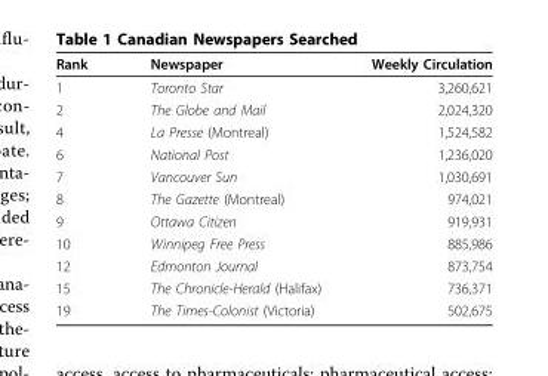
<table><thead><tr><td>Rank</td><td>Newspaper</td><td>Weekly Circulation</td></tr></thead><tbody><tr><td>1</td><td>Toronto Star</td><td>3,260,621</td></tr><tr><td>2</td><td>The Globe and Mail</td><td>2,024,320</td></tr><tr><td>4</td><td>La Presse (Montreal)</td><td>1,524,582</td></tr><tr><td>6</td><td>National Post</td><td>1,236,020</td></tr><tr><td>7</td><td>Vancouver Sun</td><td>1,030,691</td></tr><tr><td>8</td><td>The Gazette (Montreal)</td><td>974,021</td></tr><tr><td>9</td><td>Ottawa Citizen</td><td>919,931</td></tr><tr><td>10</td><td>Winnipeg Free Press</td><td>885,986</td></tr><tr><td>12</td><td>Edmonton Journal</td><td>873,754</td></tr><tr><td>15</td><td>The Chronicle-Herald (Halifax)</td><td>736,371</td></tr><tr><td>19</td><td>The Times-Colonist (Victoria)</td><td>502,675</td></tr></tbody></table>